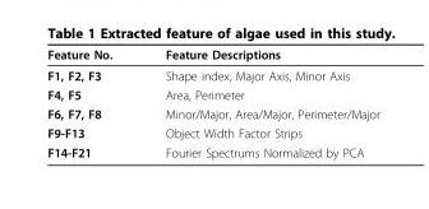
<table><thead><tr><td>Feature No.</td><td>Feature Descriptions</td></tr></thead><tbody><tr><td>F1, F2, F3</td><td>Shape index, Major Axis, Minor Axis</td></tr><tr><td>F4, F5</td><td>Area, Perimeter</td></tr><tr><td>F6, F7, F8</td><td>Minor/Major, Area/Major, Perimeter/Major</td></tr><tr><td>F9-F13</td><td>Object Width Factor Strips</td></tr><tr><td>F14-F21</td><td>Fourier Spectrums Normalized by PCA</td></tr></tbody></table>